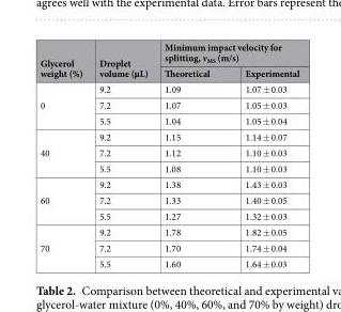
<table><thead><tr><td rowspan="2">Glycerol weight (%)</td><td rowspan="2">Droplet volume (µL)</td><td colspan="2">Minimum impact velocity for splitting, v<sub>MS</sub> (m/s)</td></tr><tr><td>Theoretical</td><td>Experimental</td></tr></thead><tbody><tr><td rowspan="3">0</td><td>9.2</td><td>1.09</td><td>1.07 ± 0.03</td></tr><tr><td>7.2</td><td>1.07</td><td>1.05 ± 0.03</td></tr><tr><td>5.5</td><td>1.04</td><td>1.05 ± 0.04</td></tr><tr><td rowspan="3">40</td><td>9.2</td><td>1.15</td><td>1.14 ± 0.07</td></tr><tr><td>7.2</td><td>1.12</td><td>1.10 ± 0.03</td></tr><tr><td>5.5</td><td>1.08</td><td>1.10 ± 0.03</td></tr><tr><td rowspan="3">60</td><td>9.2</td><td>1.38</td><td>1.43 ± 0.03</td></tr><tr><td>7.2</td><td>1.33</td><td>1.40 ± 0.05</td></tr><tr><td>5.5</td><td>1.27</td><td>1.32 ± 0.03</td></tr><tr><td rowspan="3">70</td><td>9.2</td><td>1.78</td><td>1.82 ± 0.05</td></tr><tr><td>7.2</td><td>1.70</td><td>1.74 ± 0.04</td></tr><tr><td>5.5</td><td>1.60</td><td>1.64 ± 0.03</td></tr></tbody></table>